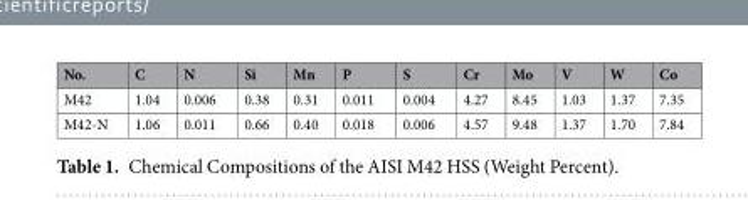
<table><thead><tr><td>No.</td><td>C</td><td>N</td><td>Si</td><td>Mn</td><td>P</td><td>S</td><td>Cr</td><td>Mo</td><td>V</td><td>W</td><td>Co</td></tr></thead><tbody><tr><td>M42</td><td>1.04</td><td>0.006</td><td>0.38</td><td>0.31</td><td>0.011</td><td>0.004</td><td>4.27</td><td>8.45</td><td>1.03</td><td>1.37</td><td>7.35</td></tr><tr><td>M42-N</td><td>1.06</td><td>0.011</td><td>0.66</td><td>0.40</td><td>0.018</td><td>0.006</td><td>4.57</td><td>9.48</td><td>1.37</td><td>1.70</td><td>7.84</td></tr></tbody></table>